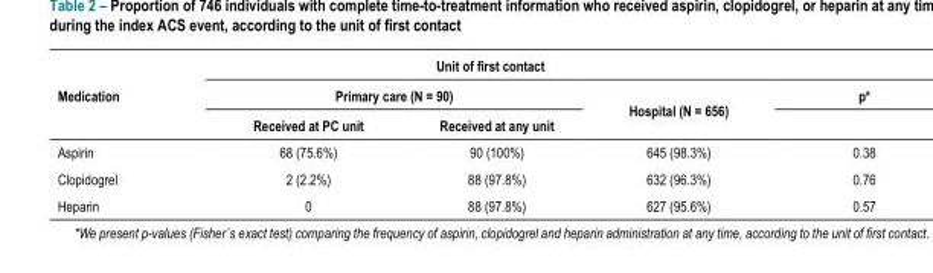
<table><thead><tr><td rowspan="3">Medication</td><td colspan="4">Unit of first contact</td></tr><tr><td colspan="2">Primary care (N = 90)</td><td rowspan="2">Hospital (N = 656)</td><td rowspan="2">p*</td></tr><tr><td>Received at PC unit</td><td>Received at any unit</td></tr></thead><tbody><tr><td>Aspirin</td><td>68 (75.6%)</td><td>90 (100%)</td><td>645 (98.3%)</td><td>0.38</td></tr><tr><td>Clopidogrel</td><td>2 (2.2%)</td><td>88 (97.8%)</td><td>632 (96.3%)</td><td>0.76</td></tr><tr><td>Heparin</td><td>0</td><td>88 (97.8%)</td><td>627 (95.6%)</td><td>0.57</td></tr></tbody></table>